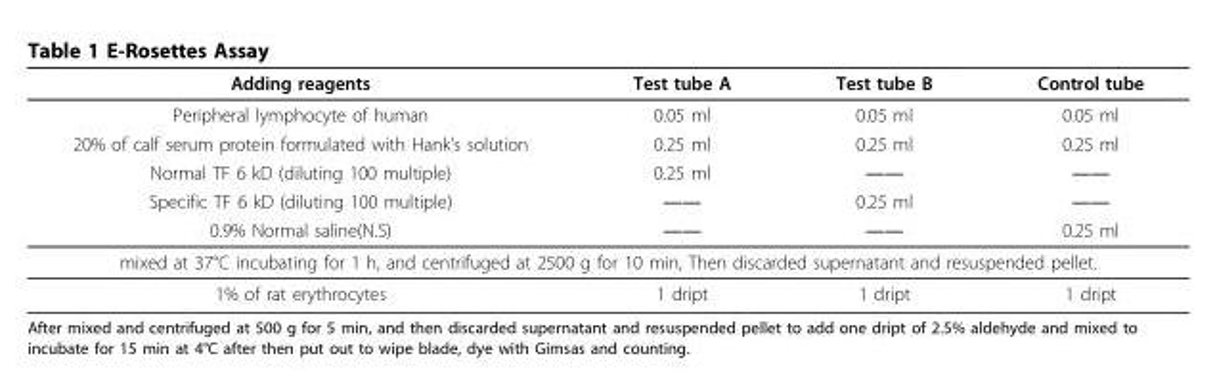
<table><thead><tr><td>Adding reagents</td><td>Test tube A</td><td>Test tube B</td><td>Control tube</td></tr></thead><tbody><tr><td>Peripheral lymphocyte of human</td><td>0.05 ml</td><td>0.05 ml</td><td>0.05 ml</td></tr><tr><td>20% of calf serum protein formulated with Hank’s solution</td><td>0.25 ml</td><td>0.25 ml</td><td>0.25 ml</td></tr><tr><td>Normal TF 6 kD (diluting 100 multiple)</td><td>0.25 ml</td><td>――</td><td>――</td></tr><tr><td>Specific TF 6 kD (diluting 100 multiple)</td><td>――</td><td>0.25 ml</td><td>――</td></tr><tr><td>0.9% Normal saline(N.S)</td><td>――</td><td>――</td><td>0.25 ml</td></tr><tr><td colspan="4">mixed at 37°C incubating for 1 h, and centrifuged at 2500 g for 10 min, Then discarded supernatant and resuspended pellet.</td></tr><tr><td>1% of rat erythrocytes</td><td>1 dript</td><td>1 dript</td><td>1 dript</td></tr></tbody></table>